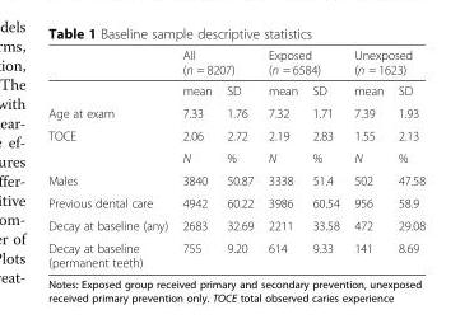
<table><thead><tr><td rowspan="2"></td><td colspan="2">All (n = 8207)</td><td colspan="2">Exposed (n = 6584)</td><td colspan="2">Unexposed (n = 1623)</td></tr><tr><td>mean</td><td>SD</td><td>mean</td><td>SD</td><td>mean</td><td>SD</td></tr></thead><tbody><tr><td>Age at exam</td><td>7.33</td><td>1.76</td><td>7.32</td><td>1.71</td><td>7.39</td><td>1.93</td></tr><tr><td rowspan="2">TOCE</td><td>2.06</td><td>2.72</td><td>2.19</td><td>2.83</td><td>1.55</td><td>2.13</td></tr><tr><td>N</td><td>%</td><td>N</td><td>%</td><td>N</td><td>%</td></tr><tr><td>Males</td><td>3840</td><td>50.87</td><td>3338</td><td>51.4</td><td>502</td><td>47.58</td></tr><tr><td>Previous dental care</td><td>4942</td><td>60.22</td><td>3986</td><td>60.54</td><td>956</td><td>58.9</td></tr><tr><td>Decay at baseline (any)</td><td>2683</td><td>32.69</td><td>2211</td><td>33.58</td><td>472</td><td>29.08</td></tr><tr><td>Decay at baseline (permanent teeth)</td><td>755</td><td>9.20</td><td>614</td><td>9.33</td><td>141</td><td>8.69</td></tr></tbody></table>